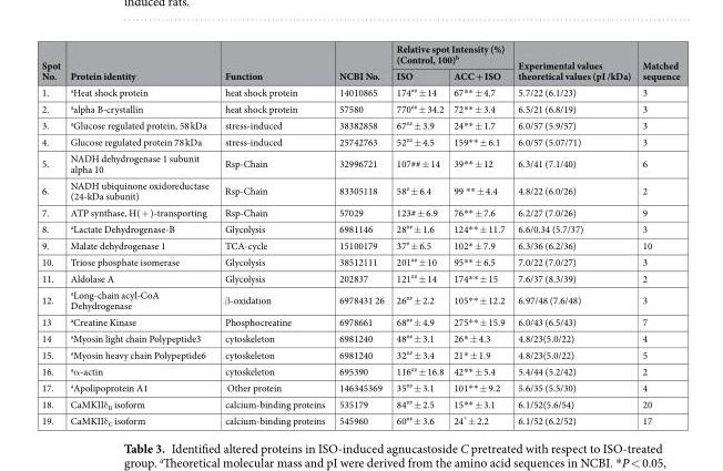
<table><thead><tr><td rowspan="2">Spot No.</td><td rowspan="2">Protein identity</td><td rowspan="2">Function</td><td rowspan="2">NCBI No.</td><td colspan="2">Relative spot Intensity (%) (Control, 100)<sup>b</sup></td><td rowspan="2">Experimental values theoretical values (pI /kDa)</td><td rowspan="2">Matched sequence</td></tr><tr><td>ISO</td><td>ACC + ISO</td></tr></thead><tbody><tr><td>1.</td><td><sup>a</sup>Heat shock protein</td><td>heat shock protein</td><td>14010865</td><td>174<sup>##</sup> ± 14</td><td>67** ± 4.7</td><td>5.7/22 (6.1/23)</td><td>3</td></tr><tr><td>2.</td><td><sup>a</sup>alpha B-crystallin</td><td>heat shock protein</td><td>57580</td><td>770<sup>##</sup> ± 34.2</td><td>72** ± 3.4</td><td>6.5/21 (6.8/19)</td><td>3</td></tr><tr><td>3.</td><td><sup>a</sup>Glucose regulated protein, 58 kDa</td><td>stress-induced</td><td>38382858</td><td>67<sup>##</sup> ± 3.9</td><td>24** ± 1.7</td><td>6.0/57 (5.9/57)</td><td>3</td></tr><tr><td>4.</td><td>Glucose regulated protein 78 kDa</td><td>stress-induced</td><td>25742763</td><td>52<sup>##</sup> ± 4.5</td><td>159** ± 6.1</td><td>6.0/57 (5.07/71)</td><td>3</td></tr><tr><td>5.</td><td>NADH dehydrogenase 1 subunit alpha 10</td><td>Rsp-Chain</td><td>32996721</td><td>107## ± 14</td><td>39** ± 12</td><td>6.3/41 (7.1/40)</td><td>6</td></tr><tr><td>6.</td><td>NADH ubiquinone oxidoreductase (24-kDa subunit)</td><td>Rsp-Chain</td><td>83305118</td><td>58<sup>#</sup> ± 6.4</td><td>99 ** ± 4.4</td><td>4.8/22 (6.0/26)</td><td>2</td></tr><tr><td>7.</td><td>ATP synthase, H( + )-transporting</td><td>Rsp-Chain</td><td>57029</td><td>123# ± 6.9</td><td>76** ± 7.6</td><td>6.2/27 (7.0/26)</td><td>9</td></tr><tr><td>8.</td><td><sup>a</sup>Lactate Dehydrogenase-B</td><td>Glycolysis</td><td>6981146</td><td>28<sup>##</sup> ± 1.6</td><td>124** ± 11.7</td><td>6.6/0.34 (5.7/37)</td><td>3</td></tr><tr><td>9.</td><td>Malate dehydrogenase 1</td><td>TCA-cycle</td><td>15100179</td><td>37<sup>#</sup> ± 6.5</td><td>102* ± 7.9</td><td>6.3/36 (6.2/36)</td><td>10</td></tr><tr><td>10.</td><td>Triose phosphate isomerase</td><td>Glycolysis</td><td>38512111</td><td>201<sup>##</sup> ± 10</td><td>95** ± 6.5</td><td>7.0/22 (7.0/27)</td><td>3</td></tr><tr><td>11.</td><td>Aldolase A</td><td>Glycolysis</td><td>202837</td><td>121<sup>##</sup> ± 14</td><td>174** ± 15</td><td>7.6/37 (8.3/39)</td><td>2</td></tr><tr><td>12.</td><td><sup>a</sup>Long-chain acyl-CoA Dehydrogenase</td><td>β-oxidation</td><td>6978431 26</td><td>26<sup>##</sup> ± 2.2</td><td>105** ± 12.2</td><td>6.97/48 (7.6/48)</td><td>3</td></tr><tr><td>13</td><td><sup>a</sup>Creatine Kinase</td><td>Phosphocreatine</td><td>6978661</td><td>68<sup>##</sup> ± 4.9</td><td>275** ± 15.9</td><td>6.0/43 (6.5/43)</td><td>7</td></tr><tr><td>14</td><td><sup>a</sup>Myosin light chain Polypeptide3</td><td>cytoskeleton</td><td>6981240</td><td>48<sup>##</sup> ± 3.1</td><td>26* ± 4.3</td><td>4.8/23(5.0/22)</td><td>4</td></tr><tr><td>15.</td><td><sup>a</sup>Myosin heavy chain Polypeptide6</td><td>cytoskeleton</td><td>6981240</td><td>32<sup>##</sup> ± 3.4</td><td>21* ± 1.9</td><td>4.8/23(5.0/22)</td><td>5</td></tr><tr><td>16.</td><td><sup>a</sup>α-actin</td><td>cytoskeleton</td><td>695390</td><td>116<sup>##</sup> ± 16.8</td><td>42** ± 5.4</td><td>5.4/44 (5.2/42)</td><td>2</td></tr><tr><td>17.</td><td><sup>a</sup>Apolipoprotein A1</td><td>Other protein</td><td>146345369</td><td>35<sup>##</sup> ± 3.1</td><td>101** ± 9.2</td><td>5.6/35 (5.5/30)</td><td>4</td></tr><tr><td>18.</td><td>CaMKIIδ<sub>B</sub> isoform</td><td>calcium-binding proteins</td><td>535179</td><td>84<sup>##</sup> ± 2.5</td><td>15** ± 3.1</td><td>6.1/52(5.6/54)</td><td>20</td></tr><tr><td>19.</td><td>CaMKIIδ<sub>C</sub> isoform</td><td>calcium-binding proteins</td><td>545960</td><td>60<sup>##</sup> ± 3.6</td><td>24* ± 2.2</td><td>6.1/52 (6.2/52)</td><td>17</td></tr></tbody></table>